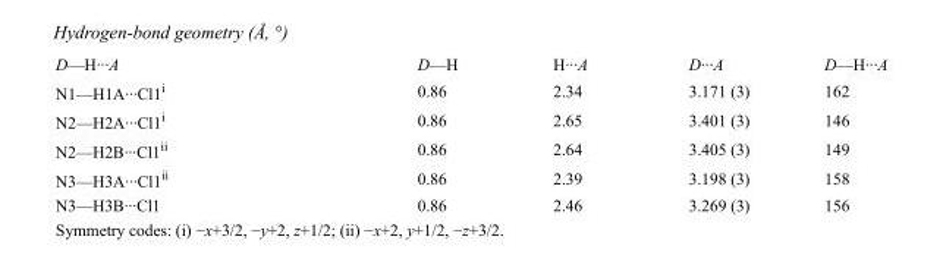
<table><tbody><tr><td>D—H···A</td><td>D—H</td><td>H···A</td><td>D···A</td><td>D—H···A</td></tr><tr><td>N1—H1A···Cl1<sup>i</sup></td><td>0.86</td><td>2.34</td><td>3.171 (3)</td><td>162</td></tr><tr><td>N2—H2A···Cl1<sup>i</sup></td><td>0.86</td><td>2.65</td><td>3.401 (3)</td><td>146</td></tr><tr><td>N2—H2B···Cl1<sup>ii</sup></td><td>0.86</td><td>2.64</td><td>3.405 (3)</td><td>149</td></tr><tr><td>N3—H3A···Cl1<sup>ii</sup></td><td>0.86</td><td>2.39</td><td>3.198 (3)</td><td>158</td></tr><tr><td>N3—H3B···Cl1</td><td>0.86</td><td>2.46</td><td>3.269 (3)</td><td>156</td></tr></tbody></table>